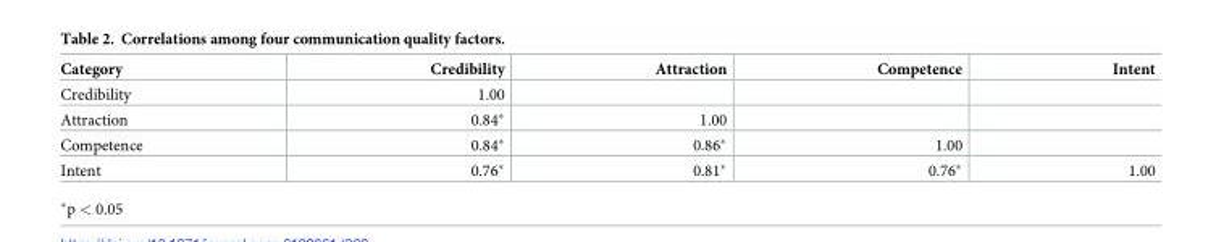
<table><tbody><tr><td>Category</td><td>Credibility</td><td>Attraction</td><td>Competence</td><td>Intent</td></tr><tr><td>Credibility</td><td>1.00</td><td></td><td></td><td></td></tr><tr><td>Attraction</td><td>0.84*</td><td>1.00</td><td></td><td></td></tr><tr><td>Competence</td><td>0.84*</td><td>0.86*</td><td>1.00</td><td></td></tr><tr><td>Intent</td><td>0.76*</td><td>0.81*</td><td>0.76*</td><td>1.00</td></tr></tbody></table>